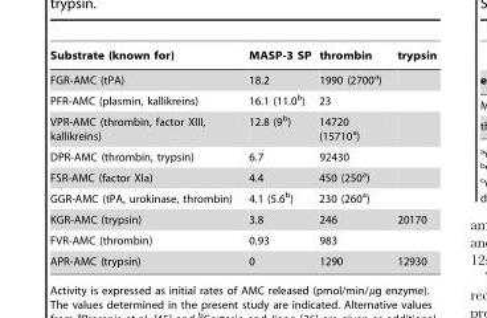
<table><thead><tr><td>Substrate (known for)</td><td>MASP-3 SP</td><td>thrombin</td><td>trypsin</td></tr></thead><tbody><tr><td>FGR-AMC (tPA)</td><td>18.2</td><td>1990 (2700<sup>a</sup>)</td><td></td></tr><tr><td>PFR-AMC (plasmin, kallikreins)</td><td>16.1 (11.0<sup>b</sup>)</td><td>23</td><td></td></tr><tr><td>VPR-AMC (thrombin, factor XIII, kallikreins)</td><td>12.8 (9<sup>b</sup>)</td><td>14720 (15710<sup>a</sup>)</td><td></td></tr><tr><td>DPR-AMC (thrombin, trypsin)</td><td>6.7</td><td>92430</td><td></td></tr><tr><td>FSR-AMC (factor XIa)</td><td>4.4</td><td>450 (250<sup>a</sup>)</td><td></td></tr><tr><td>GGR-AMC (tPA, urokinase, thrombin)</td><td>4.1 (5.6<sup>b</sup>)</td><td>230 (260<sup>a</sup>)</td><td></td></tr><tr><td>KGR-AMC (trypsin)</td><td>3.8</td><td>246</td><td>20170</td></tr><tr><td>FVR-AMC (thrombin)</td><td>0.93</td><td>983</td><td></td></tr><tr><td>APR-AMC (trypsin)</td><td>0</td><td>1290</td><td>12930</td></tr></tbody></table>